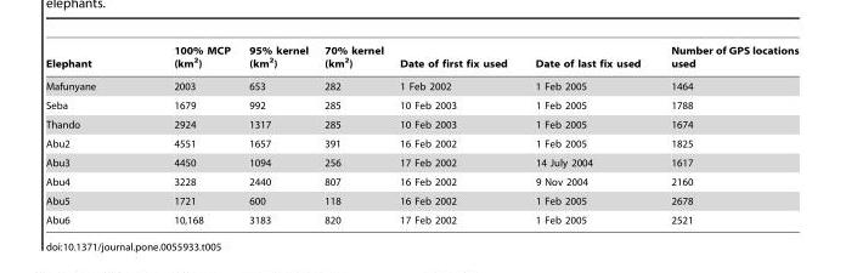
<table><thead><tr><td>Elephant</td><td>100% MCP (km<sup>2</sup>)</td><td>95% kernel (km<sup>2</sup>)</td><td>70% kernel (km<sup>2</sup>)</td><td>Date of first fix used</td><td>Date of last fix used</td><td>Number of GPS locations used</td></tr></thead><tbody><tr><td>Mafunyane</td><td>2003</td><td>653</td><td>282</td><td>1 Feb 2002</td><td>1 Feb 2005</td><td>1464</td></tr><tr><td>Seba</td><td>1679</td><td>992</td><td>285</td><td>10 Feb 2003</td><td>1 Feb 2005</td><td>1788</td></tr><tr><td>Thando</td><td>2924</td><td>1317</td><td>285</td><td>10 Feb 2003</td><td>1 Feb 2005</td><td>1674</td></tr><tr><td>Abu2</td><td>4551</td><td>1657</td><td>391</td><td>16 Feb 2002</td><td>1 Feb 2005</td><td>1825</td></tr><tr><td>Abu3</td><td>4450</td><td>1094</td><td>256</td><td>17 Feb 2002</td><td>14 July 2004</td><td>1617</td></tr><tr><td>Abu4</td><td>3228</td><td>2440</td><td>807</td><td>16 Feb 2002</td><td>9 Nov 2004</td><td>2160</td></tr><tr><td>Abu5</td><td>1721</td><td>600</td><td>118</td><td>16 Feb 2002</td><td>1 Feb 2005</td><td>2678</td></tr><tr><td>Abu6</td><td>10,168</td><td>3183</td><td>820</td><td>17 Feb 2002</td><td>1 Feb 2005</td><td>2521</td></tr></tbody></table>